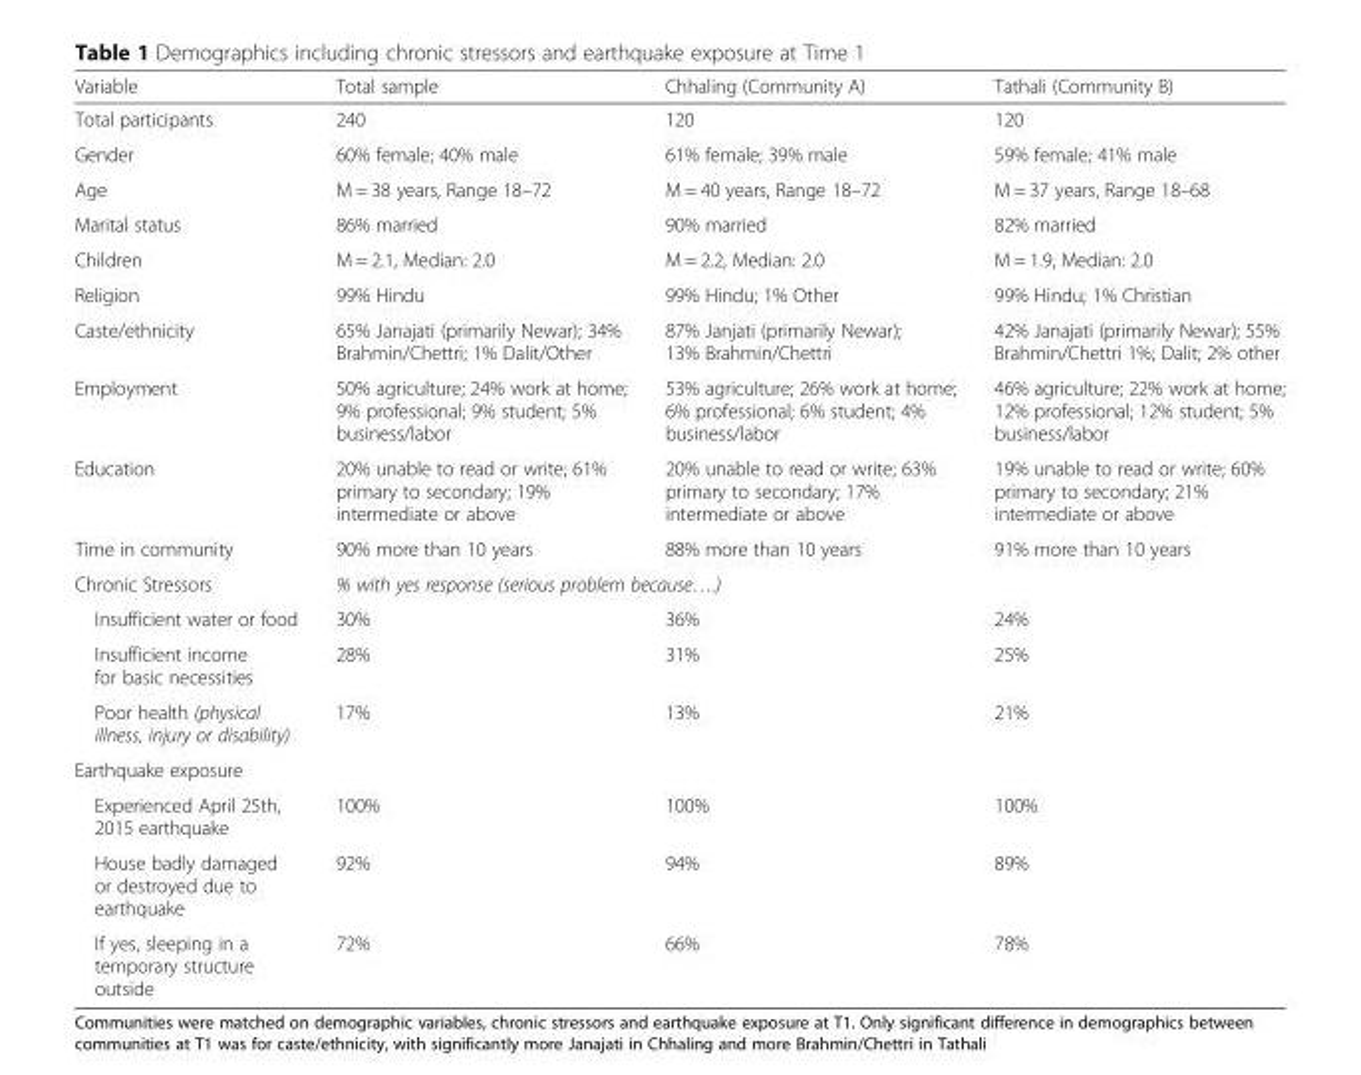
<table><thead><tr><td>Variable</td><td>Total sample</td><td>Chhaling (Community A)</td><td>Tathali (Community B)</td></tr></thead><tbody><tr><td>Total participants</td><td>240</td><td>120</td><td>120</td></tr><tr><td>Gender</td><td>60% female; 40% male</td><td>61% female; 39% male</td><td>59% female; 41% male</td></tr><tr><td>Age</td><td>M = 38 years, Range 18–72</td><td>M = 40 years, Range 18–72</td><td>M = 37 years, Range 18–68</td></tr><tr><td>Marital status</td><td>86% married</td><td>90% married</td><td>82% married</td></tr><tr><td>Children</td><td>M = 2.1, Median: 2.0</td><td>M = 2.2, Median: 2.0</td><td>M = 1.9, Median: 2.0</td></tr><tr><td>Religion</td><td>99% Hindu</td><td>99% Hindu; 1% Other</td><td>99% Hindu; 1% Christian</td></tr><tr><td>Caste/ethnicity</td><td>65% Janajati (primarily Newar); 34% Brahmin/Chettri; 1% Dalit/Other</td><td>87% Janjati (primarily Newar); 13% Brahmin/Chettri</td><td>42% Janajati (primarily Newar); 55% Brahmin/Chettri 1%; Dalit; 2% other</td></tr><tr><td>Employment</td><td>50% agriculture; 24% work at home; 9% professional; 9% student; 5% business/labor</td><td>53% agriculture; 26% work at home; 6% professional; 6% student; 4% business/labor</td><td>46% agriculture; 22% work at home; 12% professional; 12% student; 5% business/labor</td></tr><tr><td>Education</td><td>20% unable to read or write; 61% primary to secondary; 19% intermediate or above</td><td>20% unable to read or write; 63% primary to secondary; 17% intermediate or above</td><td>19% unable to read or write; 60% primary to secondary; 21% intermediate or above</td></tr><tr><td>Time in community</td><td>90% more than 10 years</td><td>88% more than 10 years</td><td>91% more than 10 years</td></tr><tr><td>Chronic Stressors</td><td colspan="3">% with yes response (serious problem because….)</td></tr><tr><td>Insufficient water or food</td><td>30%</td><td>36%</td><td>24%</td></tr><tr><td>Insufficient income for basic necessities</td><td>28%</td><td>31%</td><td>25%</td></tr><tr><td>Poor health (physical illness, injury or disability)</td><td>17%</td><td>13%</td><td>21%</td></tr><tr><td colspan="4">Earthquake exposure</td></tr><tr><td>Experienced April 25th, 2015 earthquake</td><td>100%</td><td>100%</td><td>100%</td></tr><tr><td>House badly damaged or destroyed due to earthquake</td><td>92%</td><td>94%</td><td>89%</td></tr><tr><td>If yes, sleeping in a temporary structure outside</td><td>72%</td><td>66%</td><td>78%</td></tr></tbody></table>